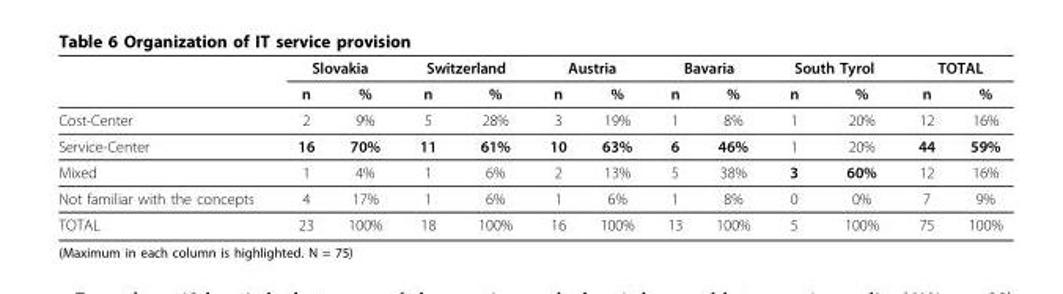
<table><thead><tr><td rowspan="2"></td><td colspan="2">Slovakia</td><td colspan="2">Switzerland</td><td colspan="2">Austria</td><td colspan="2">Bavaria</td><td colspan="2">South Tyrol</td><td colspan="2">TOTAL</td></tr><tr><td>n</td><td>%</td><td>n</td><td>%</td><td>n</td><td>%</td><td>n</td><td>%</td><td>n</td><td>%</td><td>n</td><td>%</td></tr></thead><tbody><tr><td>Cost-Center</td><td>2</td><td>9%</td><td>5</td><td>28%</td><td>3</td><td>19%</td><td>1</td><td>8%</td><td>1</td><td>20%</td><td>12</td><td>16%</td></tr><tr><td>Service-Center</td><td>16</td><td>70%</td><td>11</td><td>61%</td><td>10</td><td>63%</td><td>6</td><td>46%</td><td>1</td><td>20%</td><td>44</td><td>59%</td></tr><tr><td>Mixed</td><td>1</td><td>4%</td><td>1</td><td>6%</td><td>2</td><td>13%</td><td>5</td><td>38%</td><td>3</td><td>60%</td><td>12</td><td>16%</td></tr><tr><td>Not familiar with the concepts</td><td>4</td><td>17%</td><td>1</td><td>6%</td><td>1</td><td>6%</td><td>1</td><td>8%</td><td>0</td><td>0%</td><td>7</td><td>9%</td></tr><tr><td>TOTAL</td><td>23</td><td>100%</td><td>18</td><td>100%</td><td>16</td><td>100%</td><td>13</td><td>100%</td><td>5</td><td>100%</td><td>75</td><td>100%</td></tr></tbody></table>